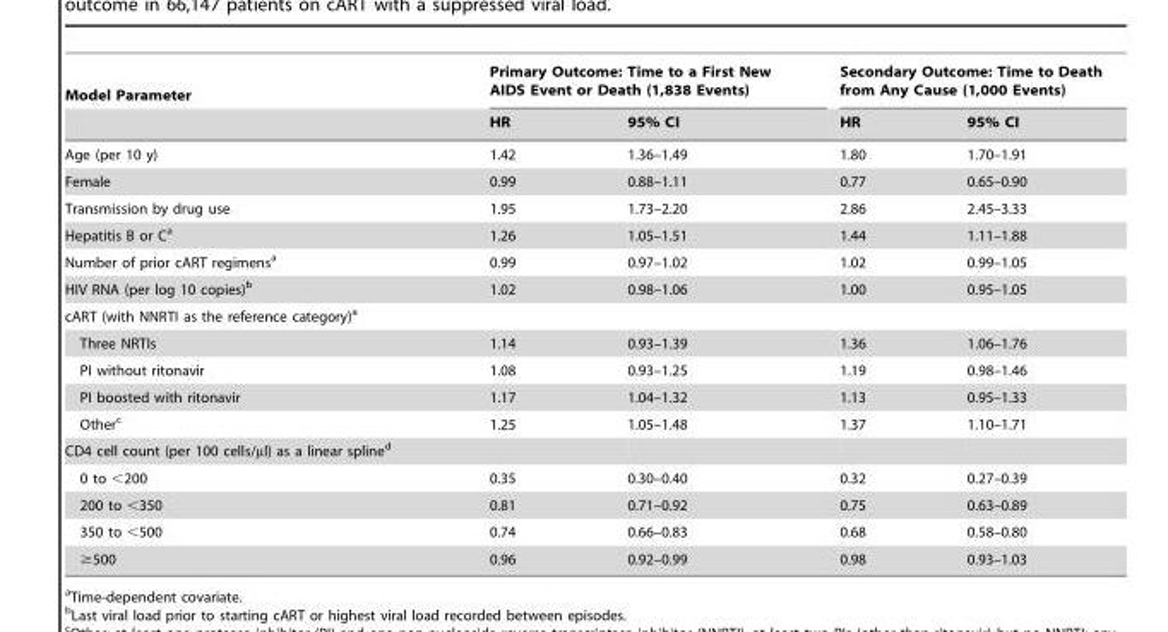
<table><thead><tr><td rowspan="2">Model Parameter</td><td colspan="2">Primary Outcome: Time to a First New AIDS Event or Death (1,838 Events)</td><td colspan="2">Secondary Outcome: Time to Death from Any Cause (1,000 Events)</td></tr><tr><td>HR</td><td>95% CI</td><td>HR</td><td>95% CI</td></tr></thead><tbody><tr><td>Age (per 10 y)</td><td>1.42</td><td>1.36–1.49</td><td>1.80</td><td>1.70–1.91</td></tr><tr><td>Female</td><td>0.99</td><td>0.88–1.11</td><td>0.77</td><td>0.65–0.90</td></tr><tr><td>Transmission by drug use</td><td>1.95</td><td>1.73–2.20</td><td>2.86</td><td>2.45–3.33</td></tr><tr><td>Hepatitis B or C<sup>a</sup></td><td>1.26</td><td>1.05–1.51</td><td>1.44</td><td>1.11–1.88</td></tr><tr><td>Number of prior cART regimens<sup>a</sup></td><td>0.99</td><td>0.97–1.02</td><td>1.02</td><td>0.99–1.05</td></tr><tr><td>HIV RNA (per log 10 copies)<sup>b</sup></td><td>1.02</td><td>0.98–1.06</td><td>1.00</td><td>0.95–1.05</td></tr><tr><td colspan="5">cART (with NNRTI as the reference category)<sup>a</sup></td></tr><tr><td>Three NRTIs</td><td>1.14</td><td>0.93–1.39</td><td>1.36</td><td>1.06–1.76</td></tr><tr><td>PI without ritonavir</td><td>1.08</td><td>0.93–1.25</td><td>1.19</td><td>0.98–1.46</td></tr><tr><td>PI boosted with ritonavir</td><td>1.17</td><td>1.04–1.32</td><td>1.13</td><td>0.95–1.33</td></tr><tr><td>Other<sup>c</sup></td><td>1.25</td><td>1.05–1.48</td><td>1.37</td><td>1.10–1.71</td></tr><tr><td colspan="5">CD4 cell count (per 100 cells/µl) as a linear spline<sup>d</sup></td></tr><tr><td>0 to &lt;200</td><td>0.35</td><td>0.30–0.40</td><td>0.32</td><td>0.27–0.39</td></tr><tr><td>200 to &lt;350</td><td>0.81</td><td>0.71–0.92</td><td>0.75</td><td>0.63–0.89</td></tr><tr><td>350 to &lt;500</td><td>0.74</td><td>0.66–0.83</td><td>0.68</td><td>0.58–0.80</td></tr><tr><td>≥500</td><td>0.96</td><td>0.92–0.99</td><td>0.98</td><td>0.93–1.03</td></tr></tbody></table>